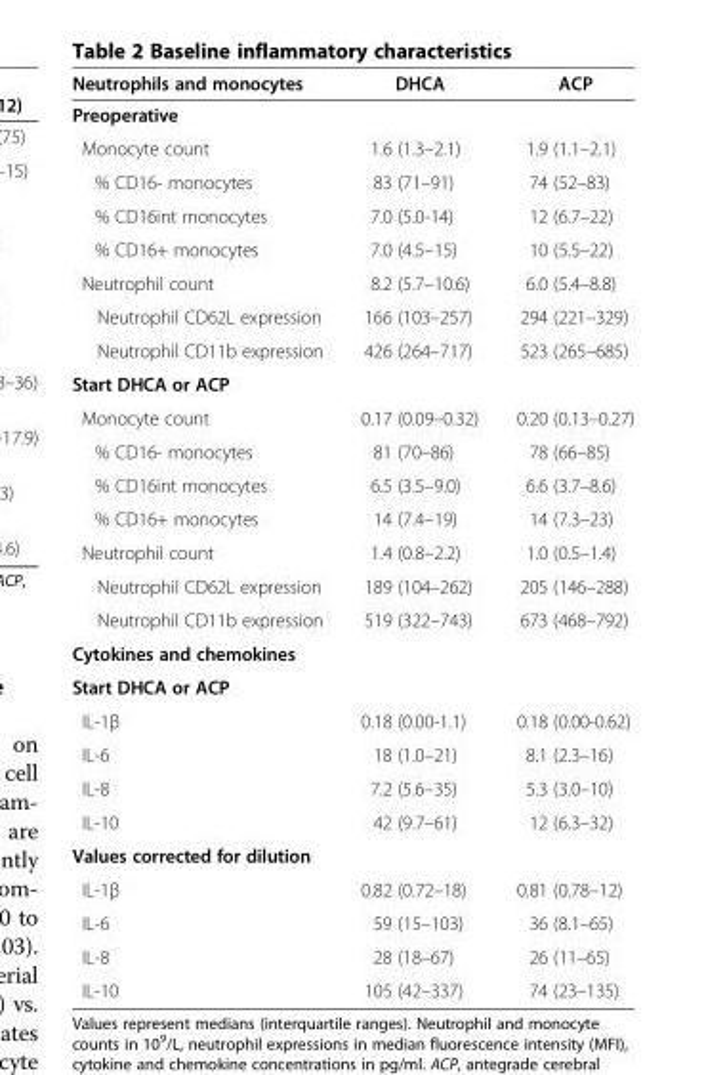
<table><thead><tr><td>Neutrophils and monocytes</td><td>DHCA</td><td>ACP</td></tr></thead><tbody><tr><td colspan="3">Preoperative</td></tr><tr><td>Monocyte count</td><td>1.6 (1.3–2.1)</td><td>1.9 (1.1–2.1)</td></tr><tr><td>% CD16- monocytes</td><td>83 (71–91)</td><td>74 (52–83)</td></tr><tr><td>% CD16int monocytes</td><td>7.0 (5.0-14)</td><td>12 (6.7–22)</td></tr><tr><td>% CD16+ monocytes</td><td>7.0 (4.5–15)</td><td>10 (5.5–22)</td></tr><tr><td>Neutrophil count</td><td>8.2 (5.7–10.6)</td><td>6.0 (5.4–8.8)</td></tr><tr><td>Neutrophil CD62L expression</td><td>166 (103–257)</td><td>294 (221–329)</td></tr><tr><td>Neutrophil CD11b expression</td><td>426 (264–717)</td><td>523 (265–685)</td></tr><tr><td colspan="3">Start DHCA or ACP</td></tr><tr><td>Monocyte count</td><td>0.17 (0.09–0.32)</td><td>0.20 (0.13–0.27)</td></tr><tr><td>% CD16- monocytes</td><td>81 (70–86)</td><td>78 (66–85)</td></tr><tr><td>% CD16int monocytes</td><td>6.5 (3.5–9.0)</td><td>6.6 (3.7–8.6)</td></tr><tr><td>% CD16+ monocytes</td><td>14 (7.4–19)</td><td>14 (7.3–23)</td></tr><tr><td>Neutrophil count</td><td>1.4 (0.8–2.2)</td><td>1.0 (0.5–1.4)</td></tr><tr><td>Neutrophil CD62L expression</td><td>189 (104–262)</td><td>205 (146–288)</td></tr><tr><td>Neutrophil CD11b expression</td><td>519 (322–743)</td><td>673 (468–792)</td></tr><tr><td colspan="3">Cytokines and chemokines</td></tr><tr><td colspan="3">Start DHCA or ACP</td></tr><tr><td>IL-1β</td><td>0.18 (0.00-1.1)</td><td>0.18 (0.00-0.62)</td></tr><tr><td>IL-6</td><td>18 (1.0–21)</td><td>8.1 (2.3–16)</td></tr><tr><td>IL-8</td><td>7.2 (5.6–35)</td><td>5.3 (3.0–10)</td></tr><tr><td>IL-10</td><td>42 (9.7–61)</td><td>12 (6.3–32)</td></tr><tr><td colspan="3">Values corrected for dilution</td></tr><tr><td>IL-1β</td><td>0.82 (0.72–18)</td><td>0.81 (0.78–12)</td></tr><tr><td>IL-6</td><td>59 (15–103)</td><td>36 (8.1–65)</td></tr><tr><td>IL-8</td><td>28 (18–67)</td><td>26 (11–65)</td></tr><tr><td>IL-10</td><td>105 (42–337)</td><td>74 (23–135)</td></tr></tbody></table>